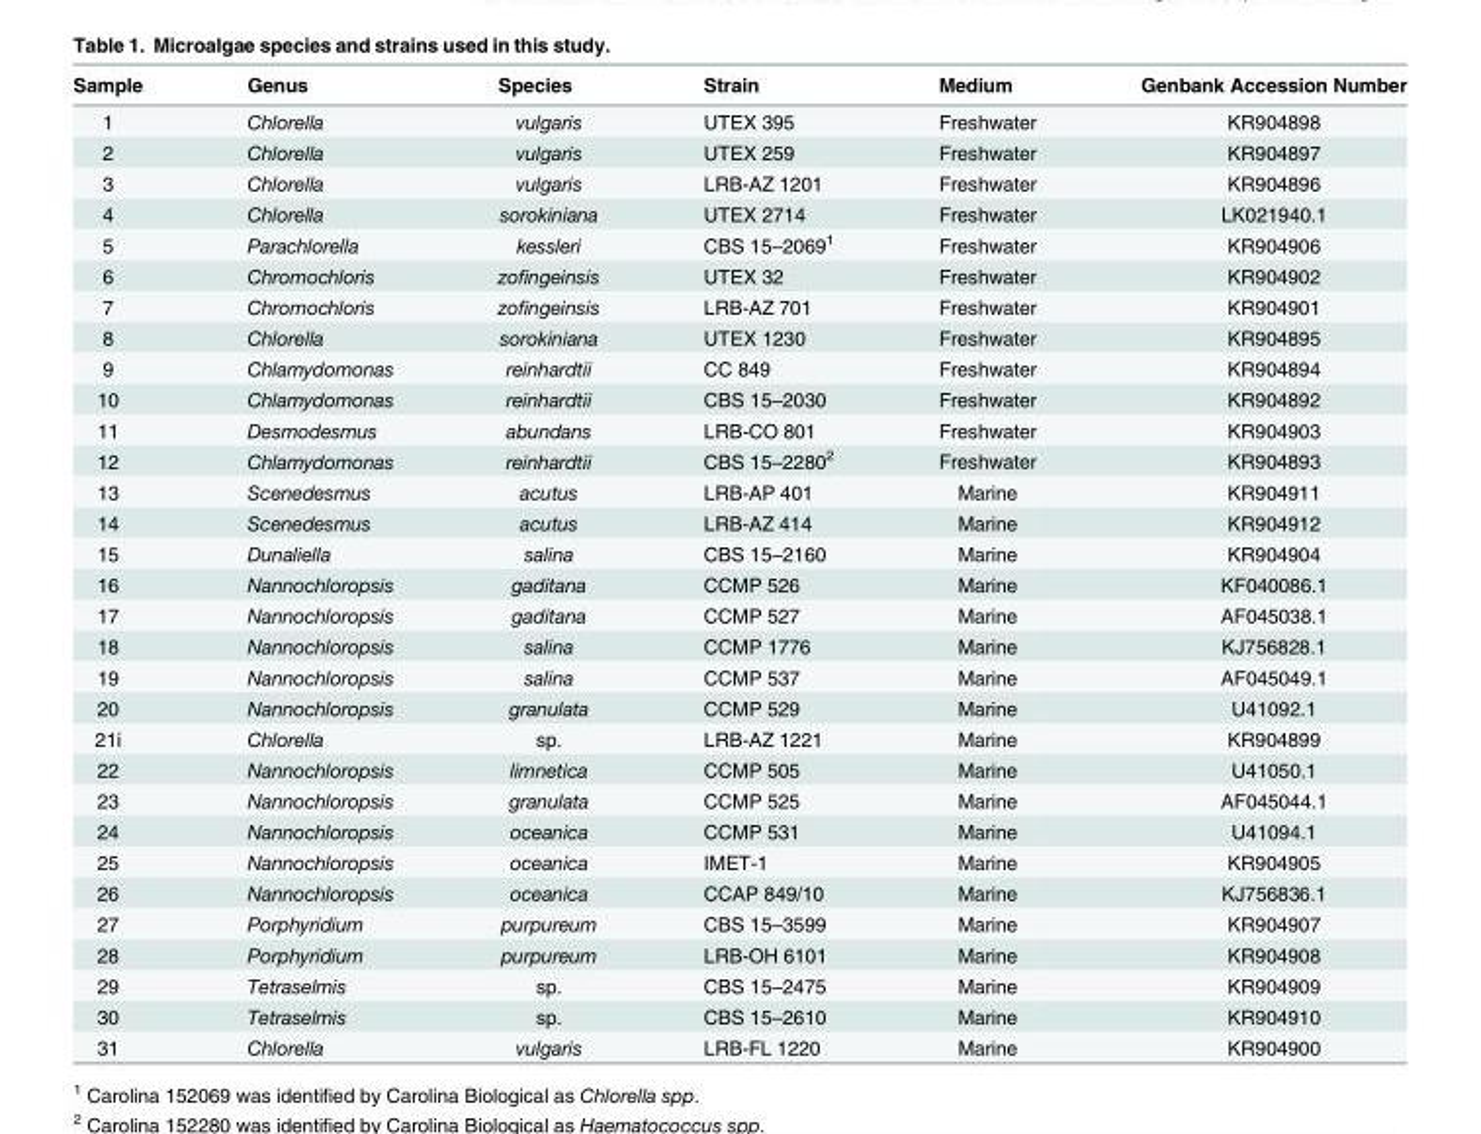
<table><thead><tr><td>Sample</td><td>Genus</td><td>Species</td><td>Strain</td><td>Medium</td><td>Genbank Accession Number</td></tr></thead><tbody><tr><td>1</td><td>Chlorella</td><td>vulgaris</td><td>UTEX 395</td><td>Freshwater</td><td>KR904898</td></tr><tr><td>2</td><td>Chlorella</td><td>vulgaris</td><td>UTEX 259</td><td>Freshwater</td><td>KR904897</td></tr><tr><td>3</td><td>Chlorella</td><td>vulgaris</td><td>LRB-AZ 1201</td><td>Freshwater</td><td>KR904896</td></tr><tr><td>4</td><td>Chlorella</td><td>sorokiniana</td><td>UTEX 2714</td><td>Freshwater</td><td>LK021940.1</td></tr><tr><td>5</td><td>Parachlorella</td><td>kessleri</td><td>CBS 15–2069<sup>1</sup></td><td>Freshwater</td><td>KR904906</td></tr><tr><td>6</td><td>Chromochloris</td><td>zofingeinsis</td><td>UTEX 32</td><td>Freshwater</td><td>KR904902</td></tr><tr><td>7</td><td>Chromochloris</td><td>zofingeinsis</td><td>LRB-AZ 701</td><td>Freshwater</td><td>KR904901</td></tr><tr><td>8</td><td>Chlorella</td><td>sorokiniana</td><td>UTEX 1230</td><td>Freshwater</td><td>KR904895</td></tr><tr><td>9</td><td>Chlamydomonas</td><td>reinhardtii</td><td>CC 849</td><td>Freshwater</td><td>KR904894</td></tr><tr><td>10</td><td>Chlamydomonas</td><td>reinhardtii</td><td>CBS 15–2030</td><td>Freshwater</td><td>KR904892</td></tr><tr><td>11</td><td>Desmodesmus</td><td>abundans</td><td>LRB-CO 801</td><td>Freshwater</td><td>KR904903</td></tr><tr><td>12</td><td>Chlamydomonas</td><td>reinhardtii</td><td>CBS 15–2280<sup>2</sup></td><td>Freshwater</td><td>KR904893</td></tr><tr><td>13</td><td>Scenedesmus</td><td>acutus</td><td>LRB-AP 401</td><td>Marine</td><td>KR904911</td></tr><tr><td>14</td><td>Scenedesmus</td><td>acutus</td><td>LRB-AZ 414</td><td>Marine</td><td>KR904912</td></tr><tr><td>15</td><td>Dunaliella</td><td>salina</td><td>CBS 15–2160</td><td>Marine</td><td>KR904904</td></tr><tr><td>16</td><td>Nannochloropsis</td><td>gaditana</td><td>CCMP 526</td><td>Marine</td><td>KF040086.1</td></tr><tr><td>17</td><td>Nannochloropsis</td><td>gaditana</td><td>CCMP 527</td><td>Marine</td><td>AF045038.1</td></tr><tr><td>18</td><td>Nannochloropsis</td><td>salina</td><td>CCMP 1776</td><td>Marine</td><td>KJ756828.1</td></tr><tr><td>19</td><td>Nannochloropsis</td><td>salina</td><td>CCMP 537</td><td>Marine</td><td>AF045049.1</td></tr><tr><td>20</td><td>Nannochloropsis</td><td>granulata</td><td>CCMP 529</td><td>Marine</td><td>U41092.1</td></tr><tr><td>21i</td><td>Chlorella</td><td>sp.</td><td>LRB-AZ 1221</td><td>Marine</td><td>KR904899</td></tr><tr><td>22</td><td>Nannochloropsis</td><td>limnetica</td><td>CCMP 505</td><td>Marine</td><td>U41050.1</td></tr><tr><td>23</td><td>Nannochloropsis</td><td>granulata</td><td>CCMP 525</td><td>Marine</td><td>AF045044.1</td></tr><tr><td>24</td><td>Nannochloropsis</td><td>oceanica</td><td>CCMP 531</td><td>Marine</td><td>U41094.1</td></tr><tr><td>25</td><td>Nannochloropsis</td><td>oceanica</td><td>IMET-1</td><td>Marine</td><td>KR904905</td></tr><tr><td>26</td><td>Nannochloropsis</td><td>oceanica</td><td>CCAP 849/10</td><td>Marine</td><td>KJ756836.1</td></tr><tr><td>27</td><td>Porphyridium</td><td>purpureum</td><td>CBS 15–3599</td><td>Marine</td><td>KR904907</td></tr><tr><td>28</td><td>Porphyridium</td><td>purpureum</td><td>LRB-OH 6101</td><td>Marine</td><td>KR904908</td></tr><tr><td>29</td><td>Tetraselmis</td><td>sp.</td><td>CBS 15–2475</td><td>Marine</td><td>KR904909</td></tr><tr><td>30</td><td>Tetraselmis</td><td>sp.</td><td>CBS 15–2610</td><td>Marine</td><td>KR904910</td></tr><tr><td>31</td><td>Chlorella</td><td>vulgaris</td><td>LRB-FL 1220</td><td>Marine</td><td>KR904900</td></tr></tbody></table>